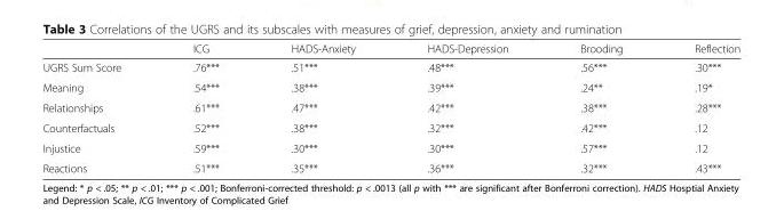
<table><thead><tr><td></td><td>ICG</td><td>HADS-Anxiety</td><td>HADS-Depression</td><td>Brooding</td><td>Reflection</td></tr></thead><tbody><tr><td>UGRS Sum Score</td><td>.76***</td><td>.51***</td><td>.48***</td><td>.56***</td><td>.30***</td></tr><tr><td>Meaning</td><td>.54***</td><td>.38***</td><td>.39***</td><td>.24**</td><td>.19*</td></tr><tr><td>Relationships</td><td>.61***</td><td>.47***</td><td>.42***</td><td>.38***</td><td>.28***</td></tr><tr><td>Counterfactuals</td><td>.52***</td><td>.38***</td><td>.32***</td><td>.42***</td><td>.12</td></tr><tr><td>Injustice</td><td>.59***</td><td>.30***</td><td>.30***</td><td>.57***</td><td>.12</td></tr><tr><td>Reactions</td><td>.51***</td><td>.35***</td><td>.36***</td><td>.32***</td><td>.43***</td></tr></tbody></table>